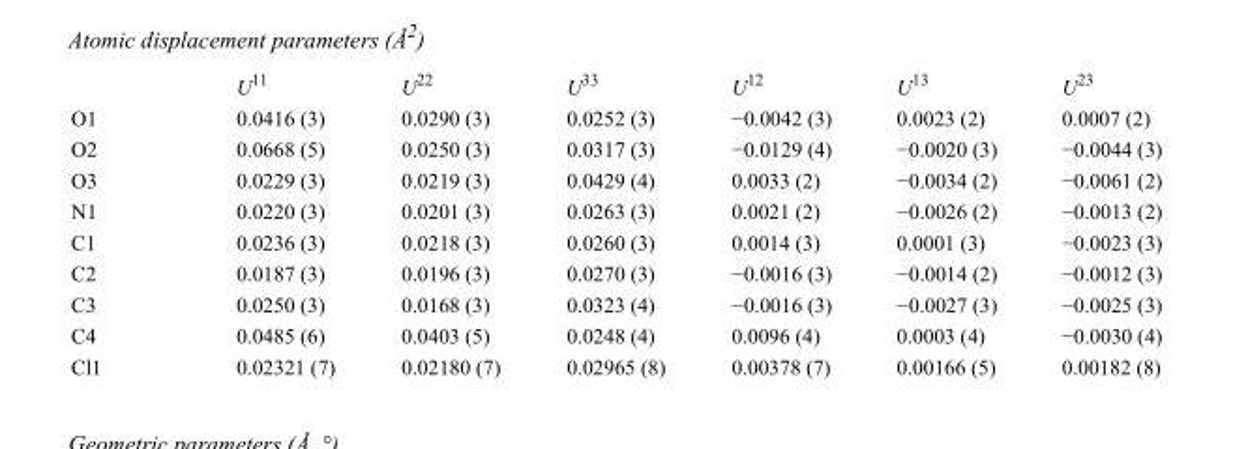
<table><thead><tr><td></td><td>U<sup>11</sup></td><td>U<sup>22</sup></td><td>U<sup>33</sup></td><td>U<sup>12</sup></td><td>U<sup>13</sup></td><td>U<sup>23</sup></td></tr></thead><tbody><tr><td>O1</td><td>0.0416 (3)</td><td>0.0290 (3)</td><td>0.0252 (3)</td><td>−0.0042 (3)</td><td>0.0023 (2)</td><td>0.0007 (2)</td></tr><tr><td>O2</td><td>0.0668 (5)</td><td>0.0250 (3)</td><td>0.0317 (3)</td><td>−0.0129 (4)</td><td>−0.0020 (3)</td><td>−0.0044 (3)</td></tr><tr><td>O3</td><td>0.0229 (3)</td><td>0.0219 (3)</td><td>0.0429 (4)</td><td>0.0033 (2)</td><td>−0.0034 (2)</td><td>−0.0061 (2)</td></tr><tr><td>N1</td><td>0.0220 (3)</td><td>0.0201 (3)</td><td>0.0263 (3)</td><td>0.0021 (2)</td><td>−0.0026 (2)</td><td>−0.0013 (2)</td></tr><tr><td>C1</td><td>0.0236 (3)</td><td>0.0218 (3)</td><td>0.0260 (3)</td><td>0.0014 (3)</td><td>0.0001 (3)</td><td>−0.0023 (3)</td></tr><tr><td>C2</td><td>0.0187 (3)</td><td>0.0196 (3)</td><td>0.0270 (3)</td><td>−0.0016 (3)</td><td>−0.0014 (2)</td><td>−0.0012 (3)</td></tr><tr><td>C3</td><td>0.0250 (3)</td><td>0.0168 (3)</td><td>0.0323 (4)</td><td>−0.0016 (3)</td><td>−0.0027 (3)</td><td>−0.0025 (3)</td></tr><tr><td>C4</td><td>0.0485 (6)</td><td>0.0403 (5)</td><td>0.0248 (4)</td><td>0.0096 (4)</td><td>0.0003 (4)</td><td>−0.0030 (4)</td></tr><tr><td>Cl1</td><td>0.02321 (7)</td><td>0.02180 (7)</td><td>0.02965 (8)</td><td>0.00378 (7)</td><td>0.00166 (5)</td><td>0.00182 (8)</td></tr></tbody></table>